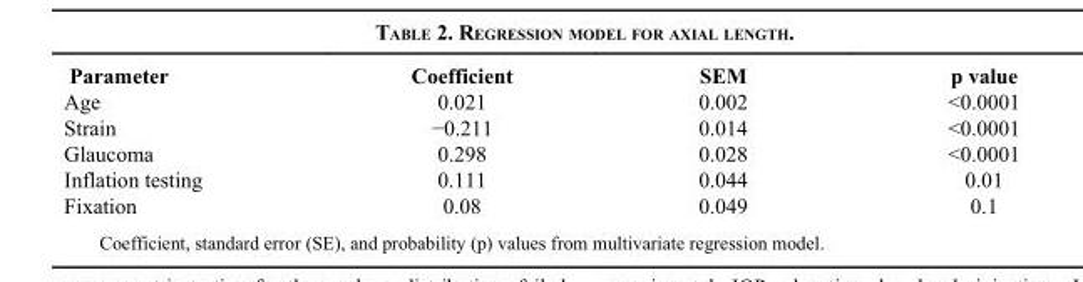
<table><thead><tr><td>Parameter</td><td>Coefficient</td><td>SEM</td><td>p value</td></tr></thead><tbody><tr><td>Age</td><td>0.021</td><td>0.002</td><td>&lt;0.0001</td></tr><tr><td>Strain</td><td>−0.211</td><td>0.014</td><td>&lt;0.0001</td></tr><tr><td>Glaucoma</td><td>0.298</td><td>0.028</td><td>&lt;0.0001</td></tr><tr><td>Inflation testing</td><td>0.111</td><td>0.044</td><td>0.01</td></tr><tr><td>Fixation</td><td>0.08</td><td>0.049</td><td>0.1</td></tr></tbody></table>